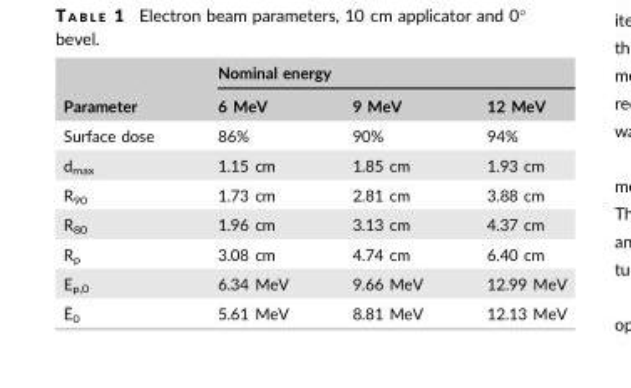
<table><thead><tr><td rowspan="2">Parameter</td><td colspan="3">Nominal energy</td></tr><tr><td>6 MeV</td><td>9 MeV</td><td>12 MeV</td></tr></thead><tbody><tr><td>Surface dose</td><td>86%</td><td>90%</td><td>94%</td></tr><tr><td>d<sub>max</sub></td><td>1.15 cm</td><td>1.85 cm</td><td>1.93 cm</td></tr><tr><td>R<sub>90</sub></td><td>1.73 cm</td><td>2.81 cm</td><td>3.88 cm</td></tr><tr><td>R<sub>80</sub></td><td>1.96 cm</td><td>3.13 cm</td><td>4.37 cm</td></tr><tr><td>R<sub>p</sub></td><td>3.08 cm</td><td>4.74 cm</td><td>6.40 cm</td></tr><tr><td>E<sub>p,0</sub></td><td>6.34 MeV</td><td>9.66 MeV</td><td>12.99 MeV</td></tr><tr><td>�E0</td><td>5.61 MeV</td><td>8.81 MeV</td><td>12.13 MeV</td></tr></tbody></table>